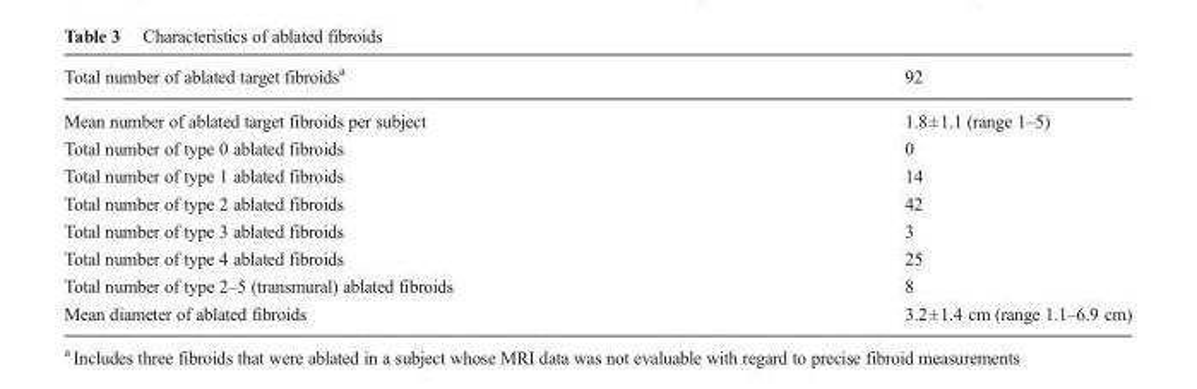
<table><thead><tr><td>Total number of ablated target fibroids<sup>a</sup></td><td>92</td></tr></thead><tbody><tr><td>Mean number of ablated target fibroids per subject</td><td>1.8±1.1 (range 1–5)</td></tr><tr><td>Total number of type 0 ablated fibroids</td><td>0</td></tr><tr><td>Total number of type 1 ablated fibroids</td><td>14</td></tr><tr><td>Total number of type 2 ablated fibroids</td><td>42</td></tr><tr><td>Total number of type 3 ablated fibroids</td><td>3</td></tr><tr><td>Total number of type 4 ablated fibroids</td><td>25</td></tr><tr><td>Total number of type 2–5 (transmural) ablated fibroids</td><td>8</td></tr><tr><td>Mean diameter of ablated fibroids</td><td>3.2±1.4 cm (range 1.1–6.9 cm)</td></tr></tbody></table>